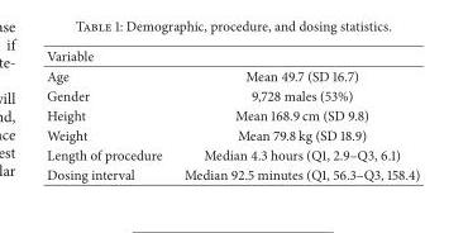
<table><thead><tr><td>Variable</td><td></td></tr></thead><tbody><tr><td>Age</td><td>Mean 49.7 (SD 16.7)</td></tr><tr><td>Gender</td><td>9,728 males (53%)</td></tr><tr><td>Height</td><td>Mean 168.9 cm (SD 9.8)</td></tr><tr><td>Weight</td><td>Mean 79.8 kg (SD 18.9)</td></tr><tr><td>Length of procedure</td><td>Median 4.3 hours (Q1, 2.9–Q3, 6.1)</td></tr><tr><td>Dosing interval</td><td>Median 92.5 minutes (Q1, 56.3–Q3, 158.4)</td></tr></tbody></table>